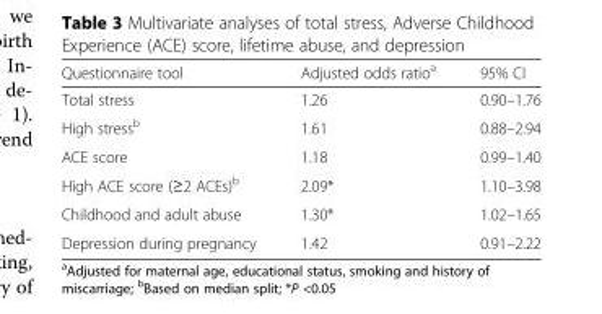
<table><thead><tr><td>Questionnaire tool</td><td>Adjusted odds ratio<sup>a</sup></td><td>95% CI</td></tr></thead><tbody><tr><td>Total stress</td><td>1.26</td><td>0.90–1.76</td></tr><tr><td>High stress<sup>b</sup></td><td>1.61</td><td>0.88–2.94</td></tr><tr><td>ACE score</td><td>1.18</td><td>0.99–1.40</td></tr><tr><td>High ACE score (≥2 ACEs)<sup>b</sup></td><td>2.09*</td><td>1.10–3.98</td></tr><tr><td>Childhood and adult abuse</td><td>1.30*</td><td>1.02–1.65</td></tr><tr><td>Depression during pregnancy</td><td>1.42</td><td>0.91–2.22</td></tr></tbody></table>